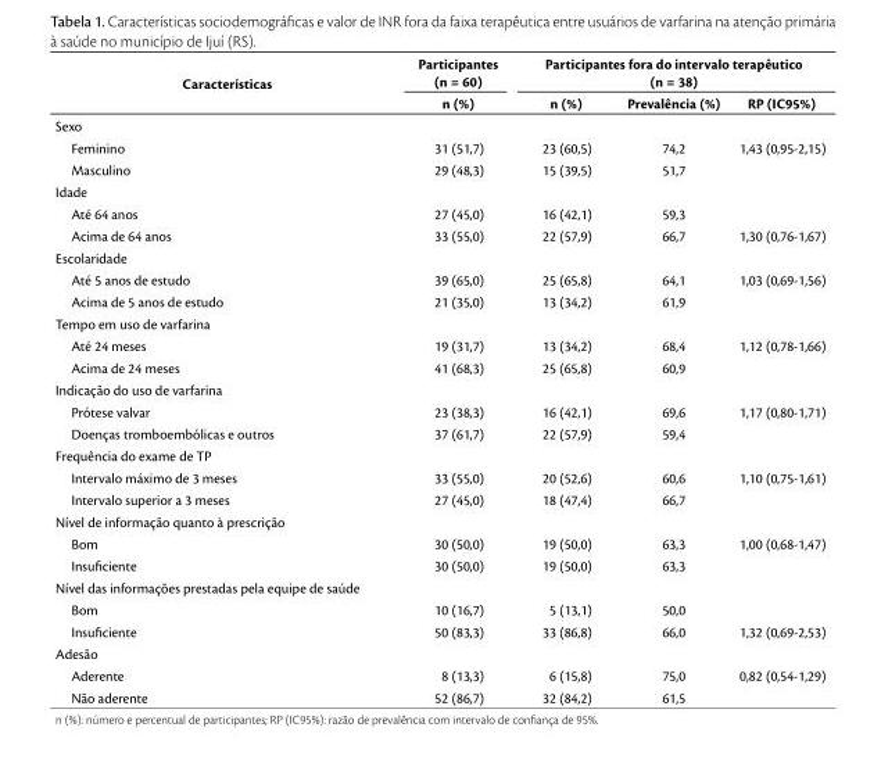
<table><thead><tr><td rowspan="2">Características</td><td rowspan="2">Participantes (n = 60) n (%)</td><td colspan="3">Participantes fora do intervalo terapêutico (n = 38)</td></tr><tr><td>n (%)</td><td>Prevalência (%)</td><td>RP (IC95%)</td></tr></thead><tbody><tr><td colspan="5">Sexo</td></tr><tr><td>Feminino</td><td>31 (51,7)</td><td>23 (60,5)</td><td>74,2</td><td>1,43 (0,95-2,15)</td></tr><tr><td>Masculino</td><td>29 (48,3)</td><td>15 (39,5)</td><td>51,7</td><td></td></tr><tr><td colspan="5">Idade</td></tr><tr><td>Até 64 anos</td><td>27 (45,0)</td><td>16 (42,1)</td><td>59,3</td><td></td></tr><tr><td>Acima de 64 anos</td><td>33 (55,0)</td><td>22 (57,9)</td><td>66,7</td><td>1,30 (0,76-1,67)</td></tr><tr><td colspan="5">Escolaridade</td></tr><tr><td>Até 5 anos de estudo</td><td>39 (65,0)</td><td>25 (65,8)</td><td>64,1</td><td>1,03 (0,69-1,56)</td></tr><tr><td>Acima de 5 anos de estudo</td><td>21 (35,0)</td><td>13 (34,2)</td><td>61,9</td><td></td></tr><tr><td colspan="5">Tempo em uso de varfarina</td></tr><tr><td>Até 24 meses</td><td>19 (31,7)</td><td>13 (34,2)</td><td>68,4</td><td>1,12 (0,78-1,66)</td></tr><tr><td>Acima de 24 meses</td><td>41 (68,3)</td><td>25 (65,8)</td><td>60,9</td><td></td></tr><tr><td colspan="5">Indicação do uso de varfarina</td></tr><tr><td>Prótese valvar</td><td>23 (38,3)</td><td>16 (42,1)</td><td>69,6</td><td>1,17 (0,80-1,71)</td></tr><tr><td>Doenças tromboembólicas e outros</td><td>37 (61,7)</td><td>22 (57,9)</td><td>59,4</td><td></td></tr><tr><td colspan="5">Frequência do exame de TP</td></tr><tr><td>Intervalo máximo de 3 meses</td><td>33 (55,0)</td><td>20 (52,6)</td><td>60,6</td><td>1,10 (0,75-1,61)</td></tr><tr><td>Intervalo superior a 3 meses</td><td>27 (45,0)</td><td>18 (47,4)</td><td>66,7</td><td></td></tr><tr><td colspan="5">Nível de informação quanto à prescrição</td></tr><tr><td>Bom</td><td>30 (50,0)</td><td>19 (50,0)</td><td>63,3</td><td>1,00 (0,68-1,47)</td></tr><tr><td>Insuficiente</td><td>30 (50,0)</td><td>19 (50,0)</td><td>63,3</td><td></td></tr><tr><td colspan="5">Nível das informações prestadas pela equipe de saúde</td></tr><tr><td>Bom</td><td>10 (16,7)</td><td>5 (13,1)</td><td>50,0</td><td></td></tr><tr><td>Insuficiente</td><td>50 (83,3)</td><td>33 (86,8)</td><td>66,0</td><td>1,32 (0,69-2,53)</td></tr><tr><td colspan="5">Adesão</td></tr><tr><td>Aderente</td><td>8 (13,3)</td><td>6 (15,8)</td><td>75,0</td><td>0,82 (0,54-1,29)</td></tr><tr><td>Não aderente</td><td>52 (86,7)</td><td>32 (84,2)</td><td>61,5</td><td></td></tr></tbody></table>